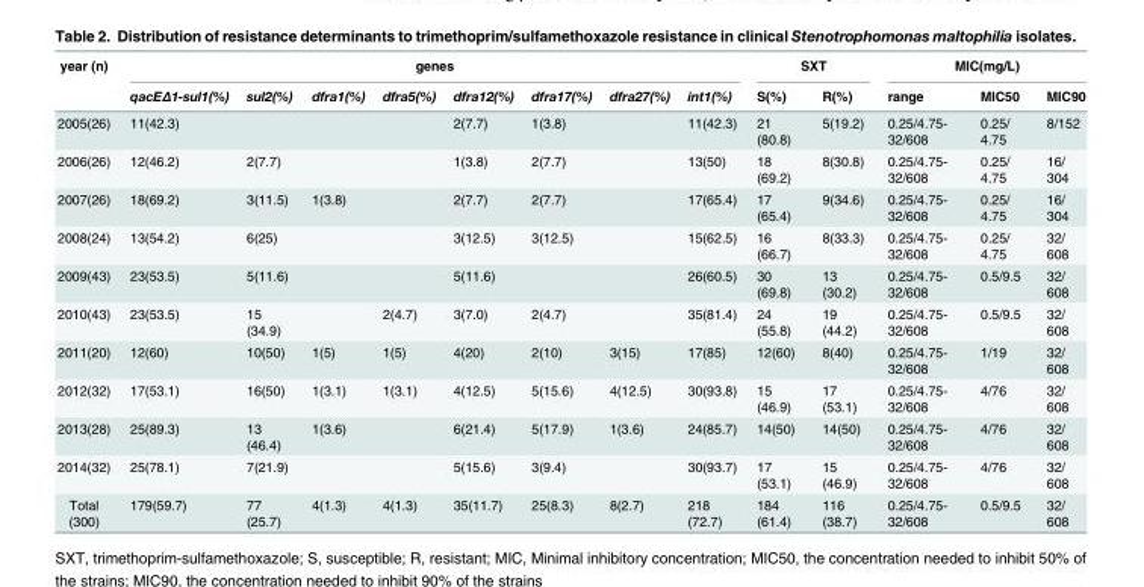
<table><thead><tr><td rowspan="2">year (n)</td><td colspan="8">genes</td><td colspan="2">SXT</td><td colspan="3">MIC(mg/L)</td></tr><tr><td>qacEΔ1-sul1(%)</td><td>sul2(%)</td><td>dfra1(%)</td><td>dfra5(%)</td><td>dfra12(%)</td><td>dfra17(%)</td><td>dfra27(%)</td><td>int1(%)</td><td>S(%)</td><td>R(%)</td><td>range</td><td>MIC50</td><td>MIC90</td></tr></thead><tbody><tr><td>2005(26)</td><td>11(42.3)</td><td></td><td></td><td></td><td>2(7.7)</td><td>1(3.8)</td><td></td><td>11(42.3)</td><td>21 (80.8)</td><td>5(19.2)</td><td>0.25/4.75- 32/608</td><td>0.25/ 4.75</td><td>8/152</td></tr><tr><td>2006(26)</td><td>12(46.2)</td><td>2(7.7)</td><td></td><td></td><td>1(3.8)</td><td>2(7.7)</td><td></td><td>13(50)</td><td>18 (69.2)</td><td>8(30.8)</td><td>0.25/4.75- 32/608</td><td>0.25/ 4.75</td><td>16/ 304</td></tr><tr><td>2007(26)</td><td>18(69.2)</td><td>3(11.5)</td><td>1(3.8)</td><td></td><td>2(7.7)</td><td>2(7.7)</td><td></td><td>17(65.4)</td><td>17 (65.4)</td><td>9(34.6)</td><td>0.25/4.75- 32/608</td><td>0.25/ 4.75</td><td>16/ 304</td></tr><tr><td>2008(24)</td><td>13(54.2)</td><td>6(25)</td><td></td><td></td><td>3(12.5)</td><td>3(12.5)</td><td></td><td>15(62.5)</td><td>16 (66.7)</td><td>8(33.3)</td><td>0.25/4.75- 32/608</td><td>0.25/ 4.75</td><td>32/ 608</td></tr><tr><td>2009(43)</td><td>23(53.5)</td><td>5(11.6)</td><td></td><td></td><td>5(11.6)</td><td></td><td></td><td>26(60.5)</td><td>30 (69.8)</td><td>13 (30.2)</td><td>0.25/4.75- 32/608</td><td>0.5/9.5</td><td>32/ 608</td></tr><tr><td>2010(43)</td><td>23(53.5)</td><td>15 (34.9)</td><td></td><td>2(4.7)</td><td>3(7.0)</td><td>2(4.7)</td><td></td><td>35(81.4)</td><td>24 (55.8)</td><td>19 (44.2)</td><td>0.25/4.75- 32/608</td><td>0.5/9.5</td><td>32/ 608</td></tr><tr><td>2011(20)</td><td>12(60)</td><td>10(50)</td><td>1(5)</td><td>1(5)</td><td>4(20)</td><td>2(10)</td><td>3(15)</td><td>17(85)</td><td>12(60)</td><td>8(40)</td><td>0.25/4.75- 32/608</td><td>1/19</td><td>32/ 608</td></tr><tr><td>2012(32)</td><td>17(53.1)</td><td>16(50)</td><td>1(3.1)</td><td>1(3.1)</td><td>4(12.5)</td><td>5(15.6)</td><td>4(12.5)</td><td>30(93.8)</td><td>15 (46.9)</td><td>17 (53.1)</td><td>0.25/4.75- 32/608</td><td>4/76</td><td>32/ 608</td></tr><tr><td>2013(28)</td><td>25(89.3)</td><td>13 (46.4)</td><td>1(3.6)</td><td></td><td>6(21.4)</td><td>5(17.9)</td><td>1(3.6)</td><td>24(85.7)</td><td>14(50)</td><td>14(50)</td><td>0.25/4.75- 32/608</td><td>4/76</td><td>32/ 608</td></tr><tr><td>2014(32)</td><td>25(78.1)</td><td>7(21.9)</td><td></td><td></td><td>5(15.6)</td><td>3(9.4)</td><td></td><td>30(93.7)</td><td>17 (53.1)</td><td>15 (46.9)</td><td>0.25/4.75- 32/608</td><td>4/76</td><td>32/ 608</td></tr><tr><td>Total (300)</td><td>179(59.7)</td><td>77 (25.7)</td><td>4(1.3)</td><td>4(1.3)</td><td>35(11.7)</td><td>25(8.3)</td><td>8(2.7)</td><td>218 (72.7)</td><td>184 (61.4)</td><td>116 (38.7)</td><td>0.25/4.75- 32/608</td><td>0.5/9.5</td><td>32/ 608</td></tr></tbody></table>